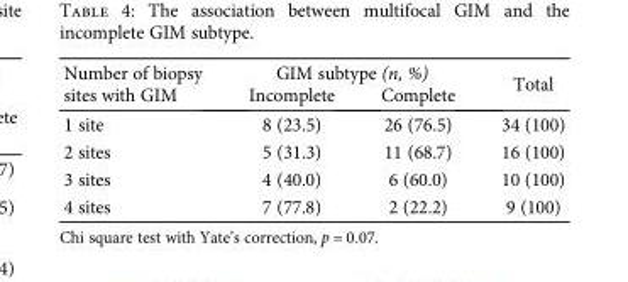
<table><thead><tr><td rowspan="2">Number of biopsy sites with GIM</td><td colspan="2">GIM subtype (n, %)</td><td rowspan="2">Total</td></tr><tr><td>Incomplete</td><td>Complete</td></tr></thead><tbody><tr><td>1 site</td><td>8 (23.5)</td><td>26 (76.5)</td><td>34 (100)</td></tr><tr><td>2 sites</td><td>5 (31.3)</td><td>11 (68.7)</td><td>16 (100)</td></tr><tr><td>3 sites</td><td>4 (40.0)</td><td>6 (60.0)</td><td>10 (100)</td></tr><tr><td>4 sites</td><td>7 (77.8)</td><td>2 (22.2)</td><td>9 (100)</td></tr></tbody></table>